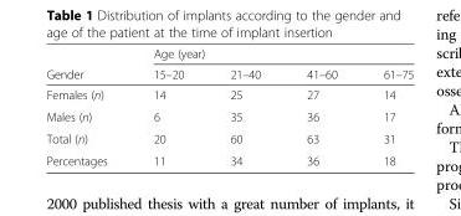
<table><thead><tr><td rowspan="2">Gender</td><td colspan="4">Age (year)</td></tr><tr><td>15–20</td><td>21–40</td><td>41–60</td><td>61–75</td></tr></thead><tbody><tr><td>Females (n)</td><td>14</td><td>25</td><td>27</td><td>14</td></tr><tr><td>Males (n)</td><td>6</td><td>35</td><td>36</td><td>17</td></tr><tr><td>Total (n)</td><td>20</td><td>60</td><td>63</td><td>31</td></tr><tr><td>Percentages</td><td>11</td><td>34</td><td>36</td><td>18</td></tr></tbody></table>